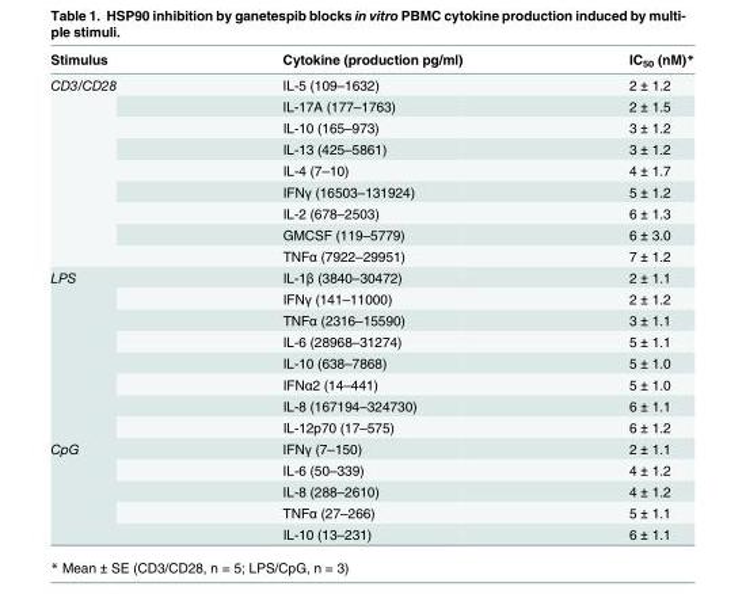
<table><thead><tr><td>Stimulus</td><td>Cytokine (production pg/ml)</td><td>IC<sub>50</sub> (nM)*</td></tr></thead><tbody><tr><td rowspan="9">CD3/CD28</td><td>IL-5 (109–1632)</td><td>2 ± 1.2</td></tr><tr><td>IL-17A (177–1763)</td><td>2 ± 1.5</td></tr><tr><td>IL-10 (165–973)</td><td>3 ± 1.2</td></tr><tr><td>IL-13 (425–5861)</td><td>3 ± 1.2</td></tr><tr><td>IL-4 (7–10)</td><td>4 ± 1.7</td></tr><tr><td>IFNγ (16503–131924)</td><td>5 ± 1.2</td></tr><tr><td>IL-2 (678–2503)</td><td>6 ± 1.3</td></tr><tr><td>GMCSF (119–5779)</td><td>6 ± 3.0</td></tr><tr><td>TNFα (7922–29951)</td><td>7 ± 1.2</td></tr><tr><td rowspan="8">LPS</td><td>IL-1β (3840–30472)</td><td>2 ± 1.1</td></tr><tr><td>IFNγ (141–11000)</td><td>2 ± 1.2</td></tr><tr><td>TNFα (2316–15590)</td><td>3 ± 1.1</td></tr><tr><td>IL-6 (28968–31274)</td><td>5 ± 1.1</td></tr><tr><td>IL-10 (638–7868)</td><td>5 ± 1.0</td></tr><tr><td>IFNα2 (14–441)</td><td>5 ± 1.0</td></tr><tr><td>IL-8 (167194–324730)</td><td>6 ± 1.1</td></tr><tr><td>IL-12p70 (17–575)</td><td>6 ± 1.2</td></tr><tr><td rowspan="5">CpG</td><td>IFNγ (7–150)</td><td>2 ± 1.1</td></tr><tr><td>IL-6 (50–339)</td><td>4 ± 1.2</td></tr><tr><td>IL-8 (288–2610)</td><td>4 ± 1.2</td></tr><tr><td>TNFα (27–266)</td><td>5 ± 1.1</td></tr><tr><td>IL-10 (13–231)</td><td>6 ± 1.1</td></tr></tbody></table>